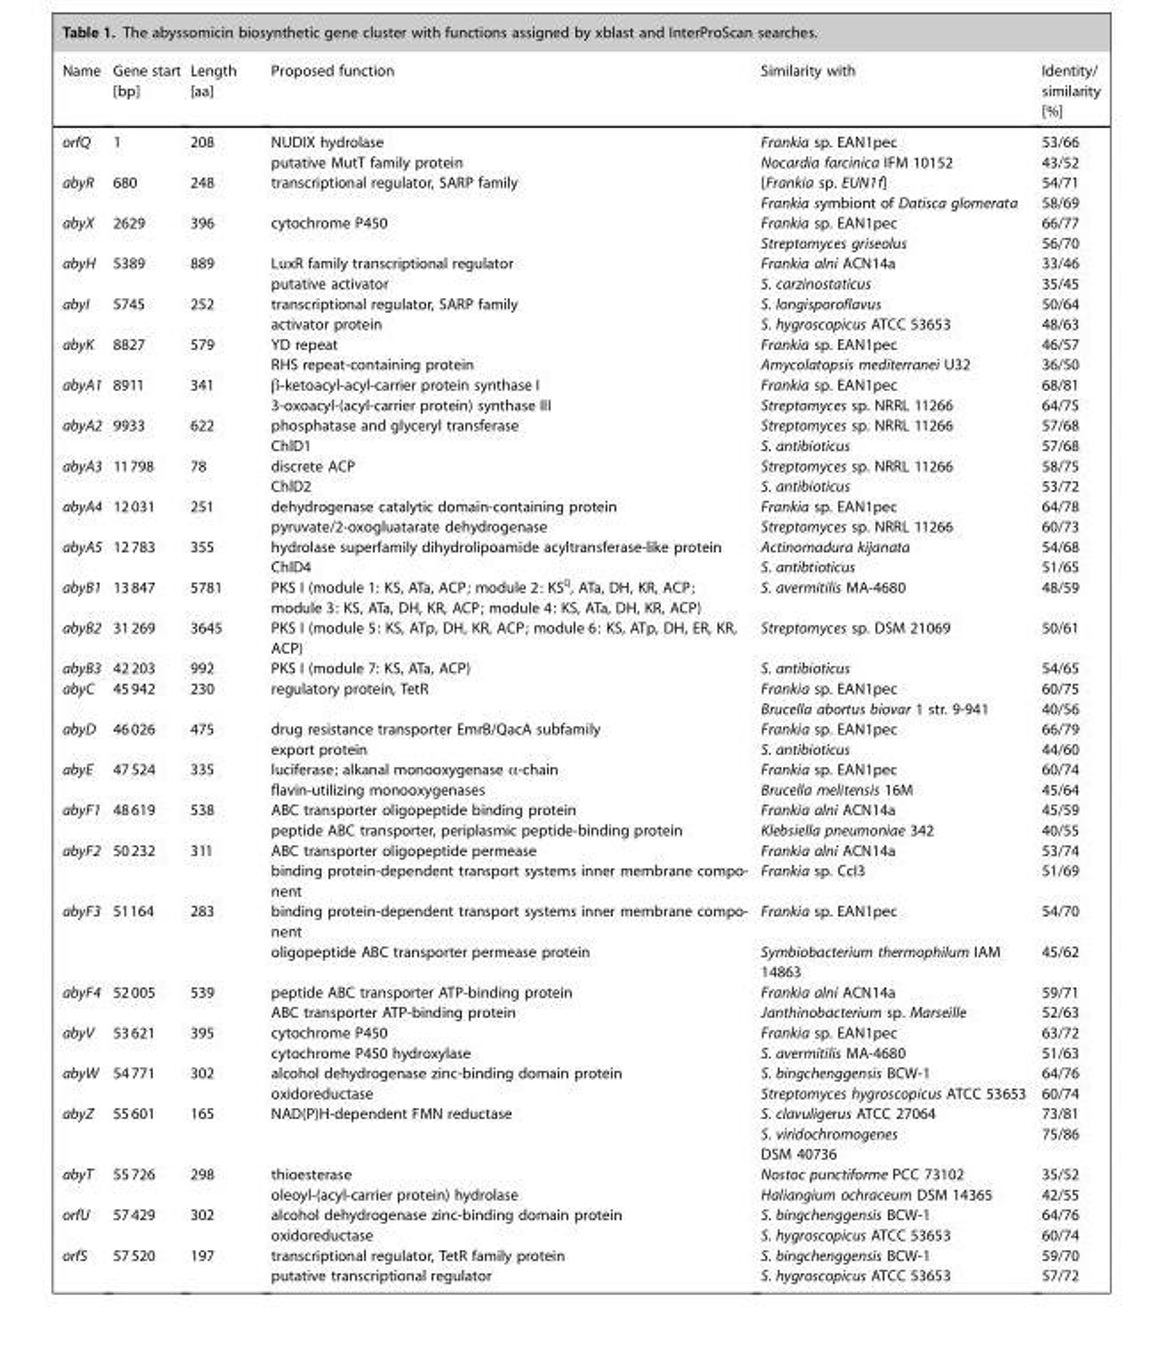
<table><thead><tr><td>Name</td><td>Gene start [bp]</td><td>Length [aa]</td><td>Proposed function</td><td>Similarity with</td><td>Identity/ similarity [%]</td></tr></thead><tbody><tr><td rowspan="2">orfQ</td><td>1</td><td>208</td><td>NUDIX hydrolase</td><td>Frankia sp. EAN1pec</td><td>53/66</td></tr><tr><td></td><td></td><td>putative MutT family protein</td><td>Nocardia farcinica IFM 10152</td><td>43/52</td></tr><tr><td rowspan="2">abyR</td><td>680</td><td>248</td><td>transcriptional regulator, SARP family</td><td>[Frankia sp. EUN1f]</td><td>54/71</td></tr><tr><td></td><td></td><td></td><td>Frankia symbiont of Datisca glomerata</td><td>58/69</td></tr><tr><td>abyX</td><td>2629</td><td>396</td><td>cytochrome P450</td><td>Frankia sp. EAN1pec Streptomyces griseolus</td><td>66/77 56/70</td></tr><tr><td rowspan="2">abyH</td><td>5389</td><td>889</td><td>LuxR family transcriptional regulator</td><td>Frankia alni ACN14a</td><td>33/46</td></tr><tr><td></td><td></td><td>putative activator</td><td>S. carzinostaticus</td><td>35/45</td></tr><tr><td rowspan="2">abyI</td><td>5745</td><td>252</td><td>transcriptional regulator, SARP family</td><td>S. longisporoflavus</td><td>50/64</td></tr><tr><td></td><td></td><td>activator protein</td><td>S. hygroscopicus ATCC 53653</td><td>48/63</td></tr><tr><td rowspan="2">abyK</td><td>8827</td><td>579</td><td>YD repeat</td><td>Frankia sp. EAN1pec</td><td>46/57</td></tr><tr><td></td><td></td><td>RHS repeat-containing protein</td><td>Amycolatopsis mediterranei U32</td><td>36/50</td></tr><tr><td rowspan="2">abyA1</td><td>8911</td><td>341</td><td>β-ketoacyl-acyl-carrier protein synthase I</td><td>Frankia sp. EAN1pec</td><td>68/81</td></tr><tr><td></td><td></td><td>3-oxoacyl-(acyl-carrier protein) synthase III</td><td>Streptomyces sp. NRRL 11266</td><td>64/75</td></tr><tr><td rowspan="2">abyA2</td><td>9933</td><td>622</td><td>phosphatase and glyceryl transferase</td><td>Streptomyces sp. NRRL 11266</td><td>57/68</td></tr><tr><td></td><td></td><td>ChlD1</td><td>S. antibioticus</td><td>57/68</td></tr><tr><td rowspan="2">abyA3</td><td>11798</td><td>78</td><td>discrete ACP</td><td>Streptomyces sp. NRRL 11266</td><td>58/75</td></tr><tr><td></td><td></td><td>ChlD2</td><td>S. antibioticus</td><td>53/72</td></tr><tr><td rowspan="2">abyA4</td><td>12031</td><td>251</td><td>dehydrogenase catalytic domain-containing protein</td><td>Frankia sp. EAN1pec</td><td>64/78</td></tr><tr><td></td><td></td><td>pyruvate/2-oxogluatarate dehydrogenase</td><td>Streptomyces sp. NRRL 11266</td><td>60/73</td></tr><tr><td rowspan="2">abyA5</td><td>12783</td><td>355</td><td>hydrolase superfamily dihydrolipoamide acyltransferase-like protein</td><td>Actinomadura kijanata</td><td>54/68</td></tr><tr><td></td><td></td><td>ChlD4</td><td>S. antibtioticus</td><td>51/65</td></tr><tr><td>abyB1</td><td>13847</td><td>5781</td><td>PKS I (module 1: KS, ATa, ACP; module 2: KS<sup>Q</sup>, ATa, DH, KR, ACP; module 3: KS, ATa, DH, KR, ACP; module 4: KS, ATa, DH, KR, ACP)</td><td>S. avermitilis MA-4680</td><td>48/59</td></tr><tr><td>abyB2</td><td>31269</td><td>3645</td><td>PKS I (module 5: KS, ATp, DH, KR, ACP; module 6: KS, ATp, DH, ER, KR, ACP)</td><td>Streptomyces sp. DSM 21069</td><td>50/61</td></tr><tr><td>abyB3</td><td>42203</td><td>992</td><td>PKS I (module 7: KS, ATa, ACP)</td><td>S. antibioticus</td><td>54/65</td></tr><tr><td rowspan="2">abyC</td><td>45942</td><td>230</td><td>regulatory protein, TetR</td><td>Frankia sp. EAN1pec</td><td>60/75</td></tr><tr><td></td><td></td><td></td><td>Brucella abortus biovar 1 str. 9-941</td><td>40/56</td></tr><tr><td rowspan="2">abyD</td><td>46026</td><td>475</td><td>drug resistance transporter EmrB/QacA subfamily</td><td>Frankia sp. EAN1pec</td><td>66/79</td></tr><tr><td></td><td></td><td>export protein</td><td>S. antibioticus</td><td>44/60</td></tr><tr><td rowspan="2">abyE</td><td>47524</td><td>335</td><td>luciferase; alkanal monooxygenase α-chain</td><td>Frankia sp. EAN1pec</td><td>60/74</td></tr><tr><td></td><td></td><td>flavin-utilizing monooxygenases</td><td>Brucella melitensis 16M</td><td>45/64</td></tr><tr><td rowspan="2">abyF1</td><td>48619</td><td>538</td><td>ABC transporter oligopeptide binding protein</td><td>Frankia alni ACN14a</td><td>45/59</td></tr><tr><td></td><td></td><td>peptide ABC transporter, periplasmic peptide-binding protein</td><td>Klebsiella pneumoniae 342</td><td>40/55</td></tr><tr><td rowspan="2">abyF2</td><td>50232</td><td>311</td><td>ABC transporter oligopeptide permease</td><td>Frankia alni ACN14a</td><td>53/74</td></tr><tr><td></td><td></td><td>binding protein-dependent transport systems inner membrane compo- nent</td><td>Frankia sp. CcI3</td><td>51/69</td></tr><tr><td rowspan="2">abyF3</td><td>51164</td><td>283</td><td>binding protein-dependent transport systems inner membrane compo- nent</td><td>Frankia sp. EAN1pec</td><td>54/70</td></tr><tr><td></td><td></td><td>oligopeptide ABC transporter permease protein</td><td>Symbiobacterium thermophilum IAM 14863</td><td>45/62</td></tr><tr><td rowspan="2">abyF4</td><td>52005</td><td>539</td><td>peptide ABC transporter ATP-binding protein</td><td>Frankia alni ACN14a</td><td>59/71</td></tr><tr><td></td><td></td><td>ABC transporter ATP-binding protein</td><td>Janthinobacterium sp. Marseille</td><td>52/63</td></tr><tr><td rowspan="2">abyV</td><td>53621</td><td>395</td><td>cytochrome P450</td><td>Frankia sp. EAN1pec</td><td>63/72</td></tr><tr><td></td><td></td><td>cytochrome P450 hydroxylase</td><td>S. avermitilis MA-4680</td><td>51/63</td></tr><tr><td rowspan="2">abyW</td><td>54771</td><td>302</td><td>alcohol dehydrogenase zinc-binding domain protein</td><td>S. bingchenggensis BCW-1</td><td>64/76</td></tr><tr><td></td><td></td><td>oxidoreductase</td><td>Streptomyces hygroscopicus ATCC 53653</td><td>60/74</td></tr><tr><td rowspan="2">abyZ</td><td>55601</td><td>165</td><td>NAD(P)H-dependent FMN reductase</td><td>S. clavuligerus ATCC 27064</td><td>73/81</td></tr><tr><td></td><td></td><td></td><td>S. viridochromogenes DSM 40736</td><td>75/86</td></tr><tr><td rowspan="2">abyT</td><td>55726</td><td>298</td><td>thioesterase</td><td>Nostoc punctiforme PCC 73102</td><td>35/52</td></tr><tr><td></td><td></td><td>oleoyl-(acyl-carrier protein) hydrolase</td><td>Haliangium ochraceum DSM 14365</td><td>42/55</td></tr><tr><td rowspan="2">orfU</td><td>57429</td><td>302</td><td>alcohol dehydrogenase zinc-binding domain protein</td><td>S. bingchenggensis BCW-1</td><td>64/76</td></tr><tr><td></td><td></td><td>oxidoreductase</td><td>S. hygroscopicus ATCC 53653</td><td>60/74</td></tr><tr><td rowspan="2">orfS</td><td>57520</td><td>197</td><td>transcriptional regulator, TetR family protein</td><td>S. bingchenggensis BCW-1</td><td>59/70</td></tr><tr><td></td><td></td><td>putative transcriptional regulator</td><td>S. hygroscopicus ATCC 53653</td><td>57/72</td></tr></tbody></table>